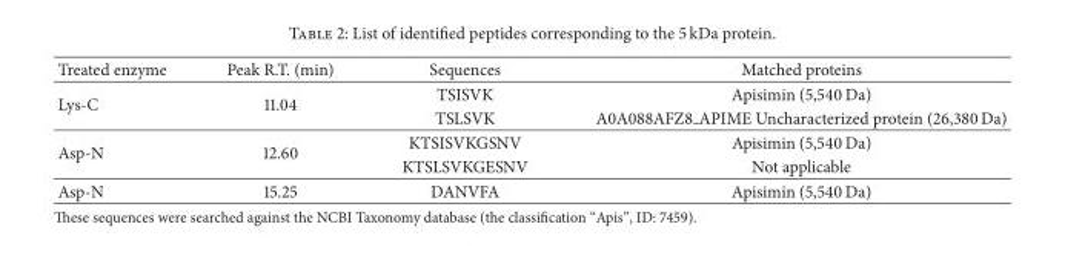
<table><thead><tr><td>Treated enzyme</td><td>Peak R.T. (min)</td><td>Sequences</td><td>Matched proteins</td></tr></thead><tbody><tr><td rowspan="2">Lys-C</td><td rowspan="2">11.04</td><td>TSISVK</td><td>Apisimin (5,540 Da)</td></tr><tr><td>TSLSVK</td><td>A0A088AFZ8 APIME Uncharacterized protein (26,380 Da)</td></tr><tr><td rowspan="2">Asp-N</td><td rowspan="2">12.60</td><td>KTSISVKGSNV</td><td>Apisimin (5,540 Da)</td></tr><tr><td>KTSLSVKGESNV</td><td>Not applicable</td></tr><tr><td>Asp-N</td><td>15.25</td><td>DANVFA</td><td>Apisimin (5,540 Da)</td></tr></tbody></table>